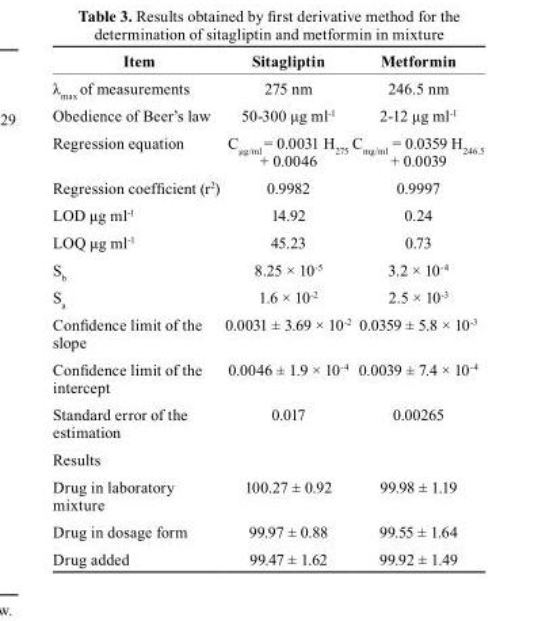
<table><thead><tr><td>Item</td><td>Sitagliptin</td><td>Metformin</td></tr></thead><tbody><tr><td>λ<sub>max</sub> of measurements</td><td>275 nm</td><td>246.5 nm</td></tr><tr><td>Obedience of Beer’s law</td><td>50-300 μg ml<sup>-1</sup></td><td>2-12 μg ml<sup>-1</sup></td></tr><tr><td>Regression equation</td><td>C<sub>μg/ml</sub> = 0.0031 H<sub>275</sub> + 0.0046</td><td>C<sub>mg/ml</sub> = 0.0359 H<sub>246.5</sub> + 0.0039</td></tr><tr><td>Regression coefficient (r<sup>2</sup>)</td><td>0.9982</td><td>0.9997</td></tr><tr><td>LOD μg ml<sup>-1</sup></td><td>14.92</td><td>0.24</td></tr><tr><td>LOQ μg ml<sup>-1</sup></td><td>45.23</td><td>0.73</td></tr><tr><td>S<sub>b</sub></td><td>8.25 × 10<sup>-5</sup></td><td>3.2 × 10<sup>-4</sup></td></tr><tr><td>S<sub>a</sub></td><td>1.6 × 10<sup>-2</sup></td><td>2.5 × 10<sup>-3</sup></td></tr><tr><td>Confidence limit of the slope</td><td>0.0031 ± 3.69 × 10<sup>-2</sup></td><td>0.0359 ± 5.8 × 10<sup>-3</sup></td></tr><tr><td>Confidence limit of the intercept</td><td>0.0046 ± 1.9 × 10<sup>-4</sup></td><td>0.0039 ± 7.4 × 10<sup>-4</sup></td></tr><tr><td>Standard error of the estimation</td><td>0.017</td><td>0.00265</td></tr><tr><td colspan="3">Results</td></tr><tr><td>Drug in laboratory mixture</td><td>100.27 ± 0.92</td><td>99.98 ± 1.19</td></tr><tr><td>Drug in dosage form</td><td>99.97 ± 0.88</td><td>99.55 ± 1.64</td></tr><tr><td>Drug added</td><td>99.47 ± 1.62</td><td>99.92 ± 1.49</td></tr></tbody></table>